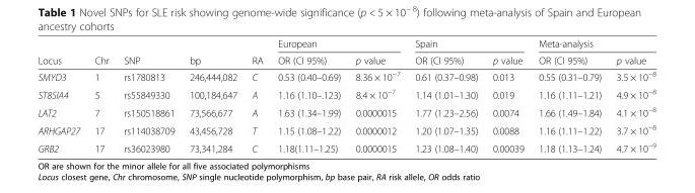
<table><thead><tr><td rowspan="2">Locus</td><td rowspan="2">Chr</td><td rowspan="2">SNP</td><td rowspan="2">bp</td><td rowspan="2">RA</td><td colspan="2">European</td><td colspan="2">Spain</td><td colspan="2">Meta-analysis</td></tr><tr><td>OR (CI 95%)</td><td>p value</td><td>OR (CI 95%)</td><td>p value</td><td>OR (CI 95%)</td><td>p value</td></tr></thead><tbody><tr><td>SMYD3</td><td>1</td><td>rs1780813</td><td>246,444,082</td><td>C</td><td>0.53 (0.40–0.69)</td><td>8.36 × 10<sup>−7</sup></td><td>0.61 (0.37–0.98)</td><td>0.013</td><td>0.55 (0.31–0.79)</td><td>3.5 × 10<sup>−8</sup></td></tr><tr><td>ST8SIA4</td><td>5</td><td>rs55849330</td><td>100,184,647</td><td>A</td><td>1.16 (1.10–.123)</td><td>8.4 × 10<sup>−7</sup></td><td>1.14 (1.01–1.30)</td><td>0.019</td><td>1.16 (1.11–1.21)</td><td>4.9 × 10<sup>−8</sup></td></tr><tr><td>LAT2</td><td>7</td><td>rs150518861</td><td>73,566,677</td><td>A</td><td>1.63 (1.34–1.99)</td><td>0.0000015</td><td>1.77 (1.23–2.56)</td><td>0.0074</td><td>1.66 (1.49–1.84)</td><td>4.1 × 10<sup>−8</sup></td></tr><tr><td>ARHGAP27</td><td>17</td><td>rs114038709</td><td>43,456,728</td><td>T</td><td>1.15 (1.08–1.22)</td><td>0.0000012</td><td>1.20 (1.07–1.35)</td><td>0.0088</td><td>1.16 (1.11–1.22)</td><td>3.7 × 10<sup>−8</sup></td></tr><tr><td>GRB2</td><td>17</td><td>rs36023980</td><td>73,341,284</td><td>C</td><td>1.18(1.11–1.25)</td><td>0.0000015</td><td>1.23 (1.08–1.40)</td><td>0.00039</td><td>1.18 (1.13–1.24)</td><td>4.7 × 10<sup>−9</sup></td></tr></tbody></table>